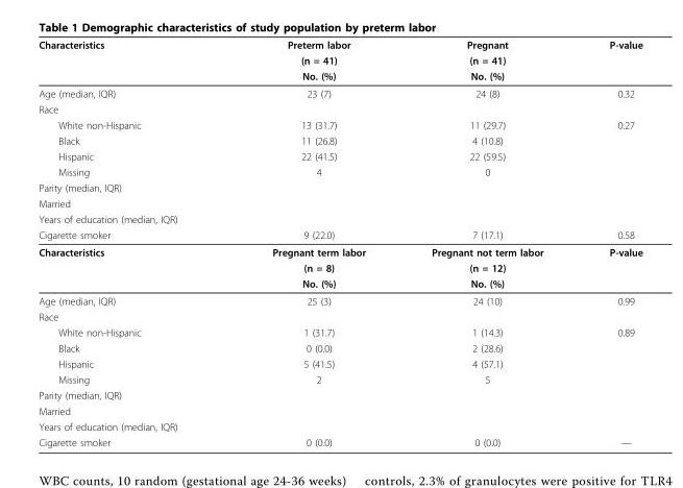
<table><thead><tr><td rowspan="3">Characteristics</td><td rowspan="3">Preterm labor (n = 41) No. (%)</td><td rowspan="3">Pregnant (n = 41) No. (%)</td><td rowspan="3">P-value</td></tr><tr></tr><tr></tr></thead><tbody><tr><td>Age (median, IQR)</td><td>23 (7)</td><td>24 (8)</td><td>0.32</td></tr><tr><td colspan="4">Race</td></tr><tr><td>White non-Hispanic</td><td>13 (31.7)</td><td>11 (29.7)</td><td>0.27</td></tr><tr><td>Black</td><td>11 (26.8)</td><td>4 (10.8)</td><td></td></tr><tr><td>Hispanic</td><td>22 (41.5)</td><td>22 (59.5)</td><td></td></tr><tr><td>Missing</td><td>4</td><td>0</td><td></td></tr><tr><td colspan="4">Parity (median, IQR)</td></tr><tr><td colspan="4">Married</td></tr><tr><td colspan="4">Years of education (median, IQR)</td></tr><tr><td>Cigarette smoker</td><td>9 (22.0)</td><td>7 (17.1)</td><td>0.58</td></tr><tr><td rowspan="3">Characteristics</td><td>Pregnant term labor</td><td>Pregnant not term labor</td><td>P-value</td></tr><tr><td>(n = 8)</td><td>(n = 12)</td><td></td></tr><tr><td>No. (%)</td><td>No. (%)</td><td></td></tr><tr><td>Age (median, IQR)</td><td>25 (3)</td><td>24 (10)</td><td>0.99</td></tr><tr><td colspan="4">Race</td></tr><tr><td>White non-Hispanic</td><td>1 (31.7)</td><td>1 (14.3)</td><td>0.89</td></tr><tr><td>Black</td><td>0 (0.0)</td><td>2 (28.6)</td><td></td></tr><tr><td>Hispanic</td><td>5 (41.5)</td><td>4 (57.1)</td><td></td></tr><tr><td>Missing</td><td>2</td><td>5</td><td></td></tr><tr><td colspan="4">Parity (median, IQR)</td></tr><tr><td colspan="4">Married</td></tr><tr><td colspan="4">Years of education (median, IQR)</td></tr><tr><td>Cigarette smoker</td><td>0 (0.0)</td><td>0 (0.0)</td><td>—</td></tr></tbody></table>